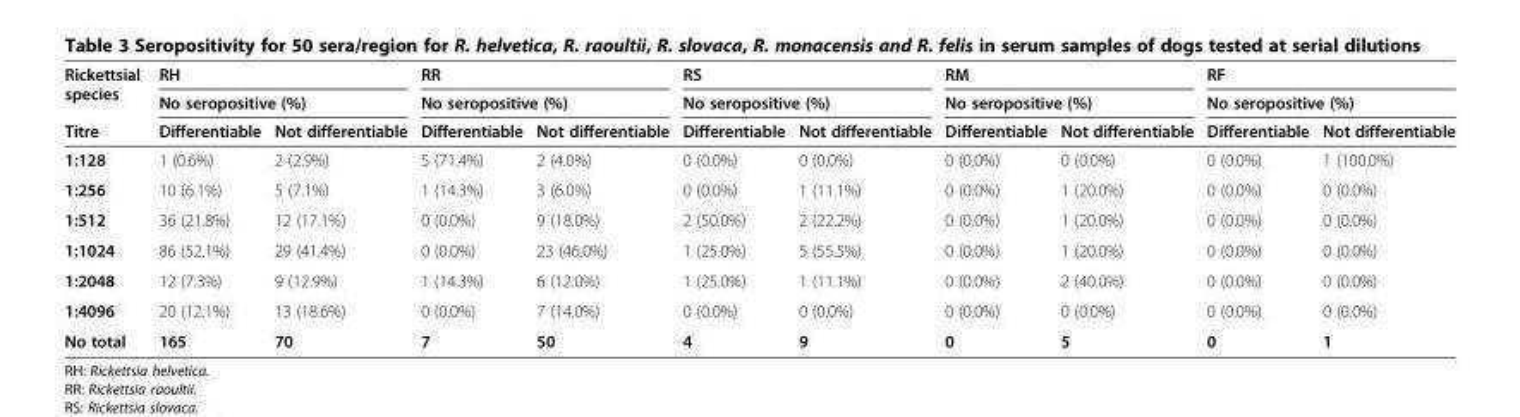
<table><thead><tr><td rowspan="3">Rickettsial species Titre</td><td rowspan="2" colspan="2">RH No seropositive (%)</td><td rowspan="2" colspan="2">RR No seropositive (%)</td><td rowspan="2" colspan="2">RS No seropositive (%)</td><td rowspan="2" colspan="2">RM No seropositive (%)</td><td rowspan="2" colspan="2">RF No seropositive (%)</td></tr><tr></tr><tr><td>Differentiable</td><td>Not differentiable</td><td>Differentiable</td><td>Not differentiable</td><td>Differentiable</td><td>Not differentiable</td><td>Differentiable</td><td>Not differentiable</td><td>Differentiable</td><td>Not differentiable</td></tr></thead><tbody><tr><td>1:128</td><td>1 (0.6%)</td><td>2 (2.9%)</td><td>5 (71.4%)</td><td>2 (4.0%)</td><td>0 (0.0%)</td><td>0 (0.0%)</td><td>0 (0.0%)</td><td>0 (0.0%)</td><td>0 (0.0%)</td><td>1 (100.0%)</td></tr><tr><td>1:256</td><td>10 (6.1%)</td><td>5 (7.1%)</td><td>1 (14.3%)</td><td>3 (6.0%)</td><td>0 (0.0%)</td><td>1 (11.1%)</td><td>0 (0.0%)</td><td>1 (20.0%)</td><td>0 (0.0%)</td><td>0 (0.0%)</td></tr><tr><td>1:512</td><td>36 (21.8%)</td><td>12 (17.1%)</td><td>0 (0.0%)</td><td>9 (18.0%)</td><td>2 (50.0%)</td><td>2 (22.2%)</td><td>0 (0.0%)</td><td>1 (20.0%)</td><td>0 (0.0%)</td><td>0 (0.0%)</td></tr><tr><td>1:1024</td><td>86 (52.1%)</td><td>29 (41.4%)</td><td>0 (0.0%)</td><td>23 (46.0%)</td><td>1 (25.0%)</td><td>5 (55.5%)</td><td>0 (0.0%)</td><td>1 (20.0%)</td><td>0 (0.0%)</td><td>0 (0.0%)</td></tr><tr><td>1:2048</td><td>12 (7.3%)</td><td>9 (12.9%)</td><td>1 (14.3%)</td><td>6 (12.0%)</td><td>1 (25.0%)</td><td>1 (11.1%)</td><td>0 (0.0%)</td><td>2 (40.0%)</td><td>0 (0.0%)</td><td>0 (0.0%)</td></tr><tr><td>1:4096</td><td>20 (12.1%)</td><td>13 (18.6%)</td><td>0 (0.0%)</td><td>7 (14.0%)</td><td>0 (0.0%)</td><td>0 (0.0%)</td><td>0 (0.0%)</td><td>0 (0.0%)</td><td>0 (0.0%)</td><td>0 (0.0%)</td></tr><tr><td>No total</td><td>165</td><td>70</td><td>7</td><td>50</td><td>4</td><td>9</td><td>0</td><td>5</td><td>0</td><td>1</td></tr></tbody></table>